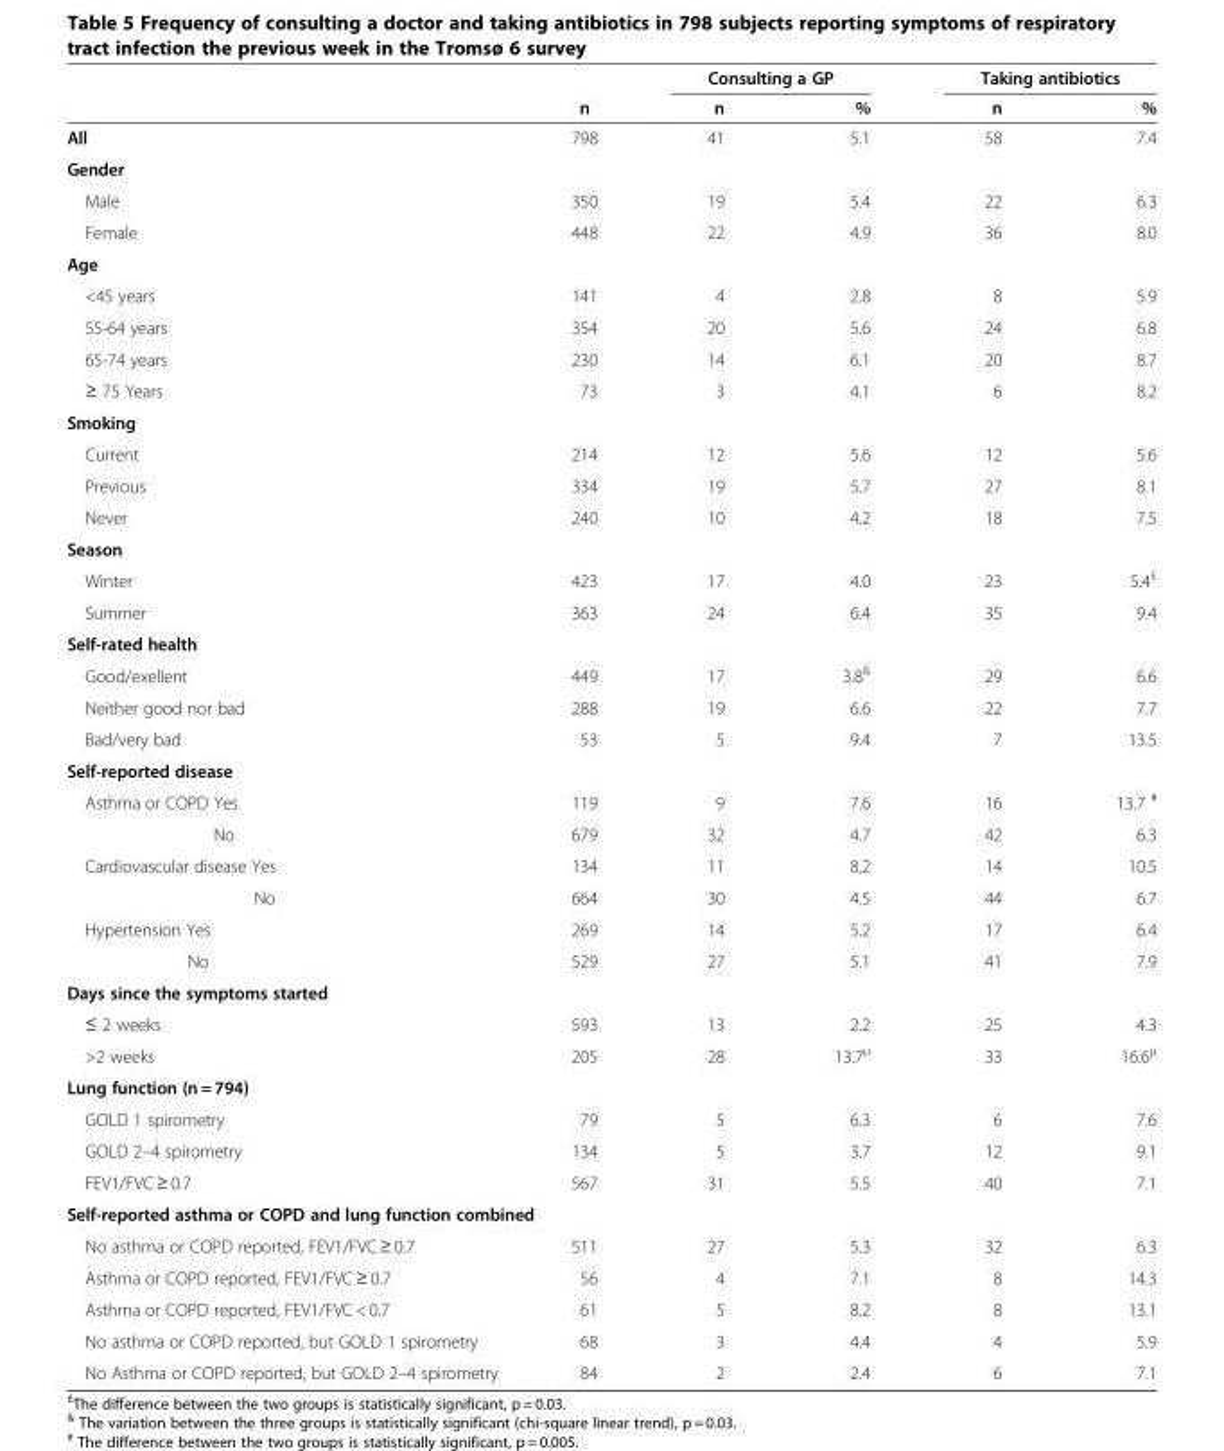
<table><thead><tr><td rowspan="2"></td><td rowspan="2">n</td><td colspan="2">Consulting a GP</td><td colspan="2">Taking antibiotics</td></tr><tr><td>n</td><td>%</td><td>n</td><td>%</td></tr></thead><tbody><tr><td>All</td><td>798</td><td>41</td><td>5.1</td><td>58</td><td>7.4</td></tr><tr><td colspan="6">Gender</td></tr><tr><td>Male</td><td>350</td><td>19</td><td>5.4</td><td>22</td><td>6.3</td></tr><tr><td>Female</td><td>448</td><td>22</td><td>4.9</td><td>36</td><td>8.0</td></tr><tr><td colspan="6">Age</td></tr><tr><td>&lt;45 years</td><td>141</td><td>4</td><td>2.8</td><td>8</td><td>5.9</td></tr><tr><td>55-64 years</td><td>354</td><td>20</td><td>5.6</td><td>24</td><td>6.8</td></tr><tr><td>65-74 years</td><td>230</td><td>14</td><td>6.1</td><td>20</td><td>8.7</td></tr><tr><td>≥ 75 Years</td><td>73</td><td>3</td><td>4.1</td><td>6</td><td>8.2</td></tr><tr><td colspan="6">Smoking</td></tr><tr><td>Current</td><td>214</td><td>12</td><td>5.6</td><td>12</td><td>5.6</td></tr><tr><td>Previous</td><td>334</td><td>19</td><td>5.7</td><td>27</td><td>8.1</td></tr><tr><td>Never</td><td>240</td><td>10</td><td>4.2</td><td>18</td><td>7.5</td></tr><tr><td colspan="6">Season</td></tr><tr><td>Winter</td><td>423</td><td>17</td><td>4.0</td><td>23</td><td>5.4<sup>£</sup></td></tr><tr><td>Summer</td><td>363</td><td>24</td><td>6.4</td><td>35</td><td>9.4</td></tr><tr><td colspan="6">Self-rated health</td></tr><tr><td>Good/exellent</td><td>449</td><td>17</td><td>3.8<sup>&amp;</sup></td><td>29</td><td>6.6</td></tr><tr><td>Neither good nor bad</td><td>288</td><td>19</td><td>6.6</td><td>22</td><td>7.7</td></tr><tr><td>Bad/very bad</td><td>53</td><td>5</td><td>9.4</td><td>7</td><td>13.5</td></tr><tr><td colspan="6">Self-reported disease</td></tr><tr><td>Asthma or COPD Yes</td><td>119</td><td>9</td><td>7.6</td><td>16</td><td>13.7 <sup>#</sup></td></tr><tr><td>No</td><td>679</td><td>32</td><td>4.7</td><td>42</td><td>6.3</td></tr><tr><td>Cardiovascular disease Yes</td><td>134</td><td>11</td><td>8.2</td><td>14</td><td>10.5</td></tr><tr><td>No</td><td>664</td><td>30</td><td>4.5</td><td>44</td><td>6.7</td></tr><tr><td>Hypertension Yes</td><td>269</td><td>14</td><td>5.2</td><td>17</td><td>6.4</td></tr><tr><td>No</td><td>529</td><td>27</td><td>5.1</td><td>41</td><td>7.9</td></tr><tr><td colspan="6">Days since the symptoms started</td></tr><tr><td>≤ 2 weeks</td><td>593</td><td>13</td><td>2.2</td><td>25</td><td>4.3</td></tr><tr><td>&gt;2 weeks</td><td>205</td><td>28</td><td>13.7<sup>μ</sup></td><td>33</td><td>16.6<sup>μ</sup></td></tr><tr><td colspan="6">Lung function (n = 794)</td></tr><tr><td>GOLD 1 spirometry</td><td>79</td><td>5</td><td>6.3</td><td>6</td><td>7.6</td></tr><tr><td>GOLD 2–4 spirometry</td><td>134</td><td>5</td><td>3.7</td><td>12</td><td>9.1</td></tr><tr><td>FEV1/FVC ≥ 0.7</td><td>567</td><td>31</td><td>5.5</td><td>40</td><td>7.1</td></tr><tr><td colspan="6">Self-reported asthma or COPD and lung function combined</td></tr><tr><td>No asthma or COPD reported, FEV1/FVC ≥ 0.7</td><td>511</td><td>27</td><td>5.3</td><td>32</td><td>6.3</td></tr><tr><td>Asthma or COPD reported, FEV1/FVC ≥ 0.7</td><td>56</td><td>4</td><td>7.1</td><td>8</td><td>14.3</td></tr><tr><td>Asthma or COPD reported, FEV1/FVC &lt; 0.7</td><td>61</td><td>5</td><td>8.2</td><td>8</td><td>13.1</td></tr><tr><td>No asthma or COPD reported, but GOLD 1 spirometry</td><td>68</td><td>3</td><td>4.4</td><td>4</td><td>5.9</td></tr><tr><td>No Asthma or COPD reported, but GOLD 2–4 spirometry</td><td>84</td><td>2</td><td>2.4</td><td>6</td><td>7.1</td></tr></tbody></table>